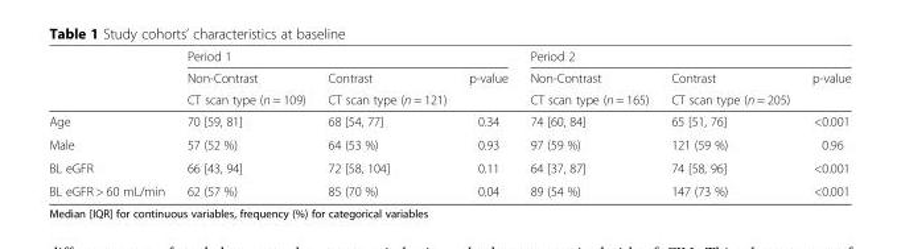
<table><thead><tr><td rowspan="3"></td><td colspan="3">Period 1</td><td colspan="3">Period 2</td></tr><tr><td rowspan="2">Non-Contrast CT scan type (n = 109)</td><td rowspan="2">Contrast CT scan type (n = 121)</td><td rowspan="2">p-value</td><td rowspan="2">Non-Contrast CT scan type (n = 165)</td><td rowspan="2">Contrast CT scan type (n = 205)</td><td rowspan="2">p-value</td></tr><tr></tr></thead><tbody><tr><td>Age</td><td>70 [59, 81]</td><td>68 [54, 77]</td><td>0.34</td><td>74 [60, 84]</td><td>65 [51, 76]</td><td>&lt;0.001</td></tr><tr><td>Male</td><td>57 (52 %)</td><td>64 (53 %)</td><td>0.93</td><td>97 (59 %)</td><td>121 (59 %)</td><td>0.96</td></tr><tr><td>BL eGFR</td><td>66 [43, 94]</td><td>72 [58, 104]</td><td>0.11</td><td>64 [37, 87]</td><td>74 [58, 96]</td><td>&lt;0.001</td></tr><tr><td>BL eGFR &gt; 60 mL/min</td><td>62 (57 %)</td><td>85 (70 %)</td><td>0.04</td><td>89 (54 %)</td><td>147 (73 %)</td><td>&lt;0.001</td></tr></tbody></table>